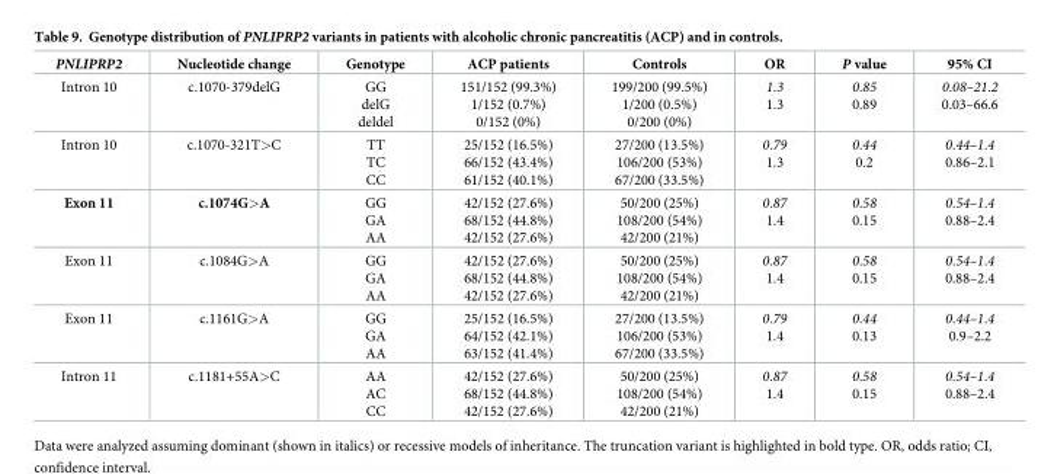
<table><thead><tr><td>PNLIPRP2</td><td>Nucleotide change</td><td>Genotype</td><td>ACP patients</td><td>Controls</td><td>OR</td><td>P value</td><td>95% CI</td></tr></thead><tbody><tr><td>Intron 10</td><td>c.1070-379delG</td><td>GG delG deldel</td><td>151/152 (99.3%) 1/152 (0.7%) 0/152 (0%)</td><td>199/200 (99.5%) 1/200 (0.5%) 0/200 (0%)</td><td>1.3 1.3</td><td>0.85 0.89</td><td>0.08–21.2 0.03–66.6</td></tr><tr><td>Intron 10</td><td>c.1070-321T&gt;C</td><td>TT TC CC</td><td>25/152 (16.5%) 66/152 (43.4%) 61/152 (40.1%)</td><td>27/200 (13.5%) 106/200 (53%) 67/200 (33.5%)</td><td>0.79 1.3</td><td>0.44 0.2</td><td>0.44–1.4 0.86–2.1</td></tr><tr><td>Exon 11</td><td>c.1074G&gt;A</td><td>GG GA AA</td><td>42/152 (27.6%) 68/152 (44.8%) 42/152 (27.6%)</td><td>50/200 (25%) 108/200 (54%) 42/200 (21%)</td><td>0.87 1.4</td><td>0.58 0.15</td><td>0.54–1.4 0.88–2.4</td></tr><tr><td>Exon 11</td><td>c.1084G&gt;A</td><td>GG GA AA</td><td>42/152 (27.6%) 68/152 (44.8%) 42/152 (27.6%)</td><td>50/200 (25%) 108/200 (54%) 42/200 (21%)</td><td>0.87 1.4</td><td>0.58 0.15</td><td>0.54–1.4 0.88–2.4</td></tr><tr><td>Exon 11</td><td>c.1161G&gt;A</td><td>GG GA AA</td><td>25/152 (16.5%) 64/152 (42.1%) 63/152 (41.4%)</td><td>27/200 (13.5%) 106/200 (53%) 67/200 (33.5%)</td><td>0.79 1.4</td><td>0.44 0.13</td><td>0.44–1.4 0.9–2.2</td></tr><tr><td>Intron 11</td><td>c.1181+55A&gt;C</td><td>AA AC CC</td><td>42/152 (27.6%) 68/152 (44.8%) 42/152 (27.6%)</td><td>50/200 (25%) 108/200 (54%) 42/200 (21%)</td><td>0.87 1.4</td><td>0.58 0.15</td><td>0.54–1.4 0.88–2.4</td></tr></tbody></table>